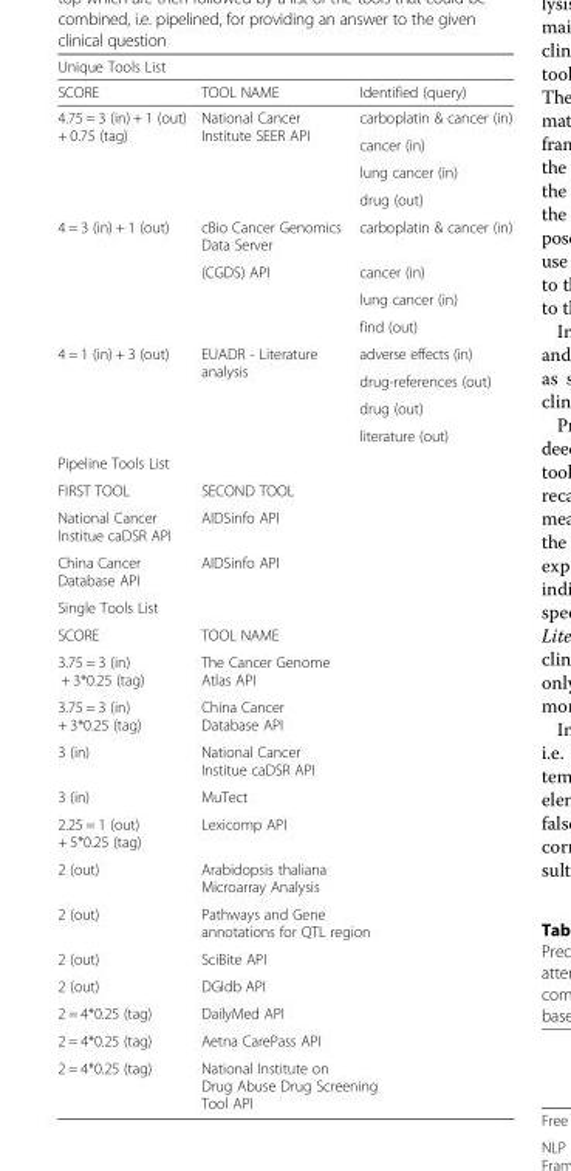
<table><thead><tr><td colspan="3">Unique Tools List</td></tr><tr><td>SCORE</td><td>TOOL NAME</td><td>Identified (query)</td></tr></thead><tbody><tr><td rowspan="4">4.75 = 3 (in) + 1 (out) + 0.75 (tag)</td><td rowspan="4">National Cancer Institute SEER API</td><td>carboplatin &amp; cancer (in)</td></tr><tr><td>cancer (in)</td></tr><tr><td>lung cancer (in)</td></tr><tr><td>drug (out)</td></tr><tr><td rowspan="4">4 = 3 (in) + 1 (out)</td><td>cBio Cancer Genomics Data Server</td><td>carboplatin &amp; cancer (in)</td></tr><tr><td rowspan="3">(CGDS) API</td><td>cancer (in)</td></tr><tr><td>lung cancer (in)</td></tr><tr><td>find (out)</td></tr><tr><td rowspan="4">4 = 1 (in) + 3 (out)</td><td rowspan="4">EUADR - Literature analysis</td><td>adverse effects (in)</td></tr><tr><td>drug-references (out)</td></tr><tr><td>drug (out)</td></tr><tr><td>literature (out)</td></tr><tr><td colspan="3">Pipeline Tools List</td></tr><tr><td>FIRST TOOL</td><td colspan="2">SECOND TOOL</td></tr><tr><td>National Cancer Institue caDSR API</td><td colspan="2">AIDSinfo API</td></tr><tr><td>China Cancer Database API</td><td colspan="2">AIDSinfo API</td></tr><tr><td colspan="3">Single Tools List</td></tr><tr><td>SCORE</td><td colspan="2">TOOL NAME</td></tr><tr><td>3.75 = 3 (in) + 3*0.25 (tag)</td><td colspan="2">The Cancer Genome Atlas API</td></tr><tr><td>3.75 = 3 (in) + 3*0.25 (tag)</td><td colspan="2">China Cancer Database API</td></tr><tr><td>3 (in)</td><td colspan="2">National Cancer Institue caDSR API</td></tr><tr><td>3 (in)</td><td colspan="2">MuTect</td></tr><tr><td>2.25 = 1 (out) + 5*0.25 (tag)</td><td colspan="2">Lexicomp API</td></tr><tr><td>2 (out)</td><td colspan="2">Arabidopsis thaliana Microarray Analysis</td></tr><tr><td>2 (out)</td><td colspan="2">Pathways and Gene annotations for QTL region</td></tr><tr><td>2 (out)</td><td colspan="2">SciBite API</td></tr><tr><td>2 (out)</td><td colspan="2">DGIdb API</td></tr><tr><td>2 = 4*0.25 (tag)</td><td colspan="2">DailyMed API</td></tr><tr><td>2 = 4*0.25 (tag)</td><td colspan="2">Aetna CarePass API</td></tr><tr><td>2 = 4*0.25 (tag)</td><td colspan="2">National Institute on Drug Abuse Drug Screening Tool API</td></tr></tbody></table>